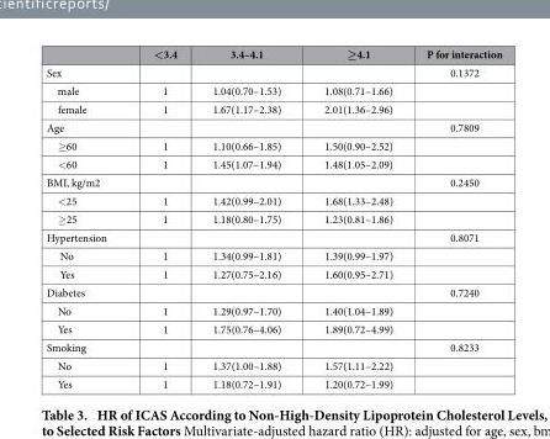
<table><thead><tr><td></td><td>&lt;3.4</td><td>3.4–4.1</td><td>≥4.1</td><td>P for interaction</td></tr></thead><tbody><tr><td>Sex</td><td></td><td></td><td></td><td>0.1372</td></tr><tr><td>male</td><td>1</td><td>1.04(0.70–1.53)</td><td>1.08(0.71–1.66)</td><td></td></tr><tr><td>female</td><td>1</td><td>1.67(1.17–2.38)</td><td>2.01(1.36–2.96)</td><td></td></tr><tr><td>Age</td><td></td><td></td><td></td><td>0.7809</td></tr><tr><td>≥ 60</td><td>1</td><td>1.10(0.66–1.85)</td><td>1.50(0.90–2.52)</td><td></td></tr><tr><td>&lt; 60</td><td>1</td><td>1.45(1.07–1.94)</td><td>1.48(1.05–2.09)</td><td></td></tr><tr><td>BMI, kg/m2</td><td></td><td></td><td></td><td>0.2450</td></tr><tr><td>&lt; 25</td><td>1</td><td>1.42(0.99–2.01)</td><td>1.68(1.33–2.48)</td><td></td></tr><tr><td>≥ 25</td><td>1</td><td>1.18(0.80–1.75)</td><td>1.23(0.81–1.86)</td><td></td></tr><tr><td>Hypertension</td><td></td><td></td><td></td><td>0.8071</td></tr><tr><td>No</td><td>1</td><td>1.34(0.99–1.81)</td><td>1.39(0.99–1.97)</td><td></td></tr><tr><td>Yes</td><td>1</td><td>1.27(0.75–2.16)</td><td>1.60(0.95–2.71)</td><td></td></tr><tr><td>Diabetes</td><td></td><td></td><td></td><td>0.7240</td></tr><tr><td>No</td><td>1</td><td>1.29(0.97–1.70)</td><td>1.40(1.04–1.89)</td><td></td></tr><tr><td>Yes</td><td>1</td><td>1.75(0.76–4.06)</td><td>1.89(0.72–4.99)</td><td></td></tr><tr><td>Smoking</td><td></td><td></td><td></td><td>0.8233</td></tr><tr><td>No</td><td>1</td><td>1.37(1.00–1.88)</td><td>1.57(1.11–2.22)</td><td></td></tr><tr><td>Yes</td><td>1</td><td>1.18(0.72–1.91)</td><td>1.20(0.72–1.99)</td><td></td></tr></tbody></table>